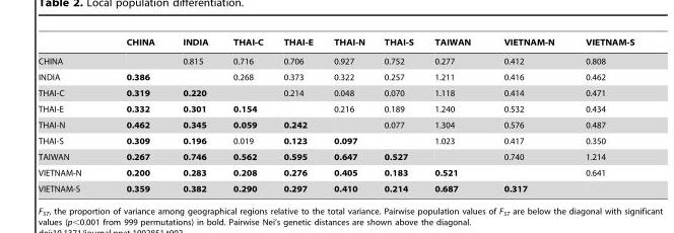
<table><thead><tr><td></td><td>CHINA</td><td>INDIA</td><td>THAI-C</td><td>THAI-E</td><td>THAI-N</td><td>THAI-S</td><td>TAIWAN</td><td>VIETNAM-N</td><td>VIETNAM-S</td></tr></thead><tbody><tr><td>CHINA</td><td></td><td>0.815</td><td>0.716</td><td>0.706</td><td>0.927</td><td>0.752</td><td>0.277</td><td>0.412</td><td>0.808</td></tr><tr><td>INDIA</td><td>0.386</td><td></td><td>0.268</td><td>0.373</td><td>0.322</td><td>0.257</td><td>1.211</td><td>0.416</td><td>0.462</td></tr><tr><td>THAI-C</td><td>0.319</td><td>0.220</td><td></td><td>0.214</td><td>0.048</td><td>0.070</td><td>1.118</td><td>0.414</td><td>0.471</td></tr><tr><td>THAI-E</td><td>0.332</td><td>0.301</td><td>0.154</td><td></td><td>0.216</td><td>0.189</td><td>1.240</td><td>0.532</td><td>0.434</td></tr><tr><td>THAI-N</td><td>0.462</td><td>0.345</td><td>0.059</td><td>0.242</td><td></td><td>0.077</td><td>1.304</td><td>0.576</td><td>0.487</td></tr><tr><td>THAI-S</td><td>0.309</td><td>0.196</td><td>0.019</td><td>0.123</td><td>0.097</td><td></td><td>1.023</td><td>0.417</td><td>0.350</td></tr><tr><td>TAIWAN</td><td>0.267</td><td>0.746</td><td>0.562</td><td>0.595</td><td>0.647</td><td>0.527</td><td></td><td>0.740</td><td>1.214</td></tr><tr><td>VIETNAM-N</td><td>0.200</td><td>0.283</td><td>0.208</td><td>0.276</td><td>0.405</td><td>0.183</td><td>0.521</td><td></td><td>0.641</td></tr><tr><td>VIETNAM-S</td><td>0.359</td><td>0.382</td><td>0.290</td><td>0.297</td><td>0.410</td><td>0.214</td><td>0.687</td><td>0.317</td><td></td></tr></tbody></table>